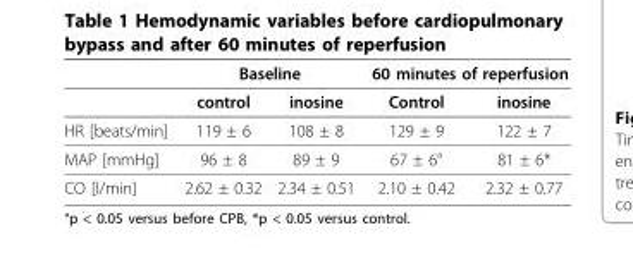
<table><thead><tr><td rowspan="2"></td><td colspan="2">Baseline</td><td colspan="2">60 minutes of reperfusion</td></tr><tr><td>control</td><td>inosine</td><td>Control</td><td>inosine</td></tr></thead><tbody><tr><td>HR [beats/min]</td><td>119 ± 6</td><td>108 ± 8</td><td>129 ± 9</td><td>122 ± 7</td></tr><tr><td>MAP [mmHg]</td><td>96 ± 8</td><td>89 ± 9</td><td>67 ± 6°</td><td>81 ± 6*</td></tr><tr><td>CO [l/min]</td><td>2.62 ± 0.32</td><td>2.34 ± 0.51</td><td>2.10 ± 0.42</td><td>2.32 ± 0.77</td></tr></tbody></table>